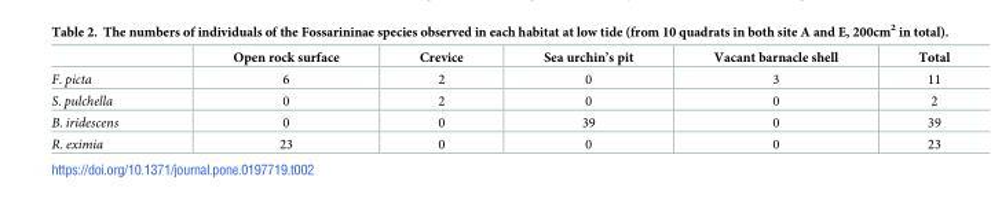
<table><thead><tr><td></td><td>Open rock surface</td><td>Crevice</td><td>Sea urchin’s pit</td><td>Vacant barnacle shell</td><td>Total</td></tr></thead><tbody><tr><td>F. picta</td><td>6</td><td>2</td><td>0</td><td>3</td><td>11</td></tr><tr><td>S. pulchella</td><td>0</td><td>2</td><td>0</td><td>0</td><td>2</td></tr><tr><td>B. iridescens</td><td>0</td><td>0</td><td>39</td><td>0</td><td>39</td></tr><tr><td>R. eximia</td><td>23</td><td>0</td><td>0</td><td>0</td><td>23</td></tr></tbody></table>